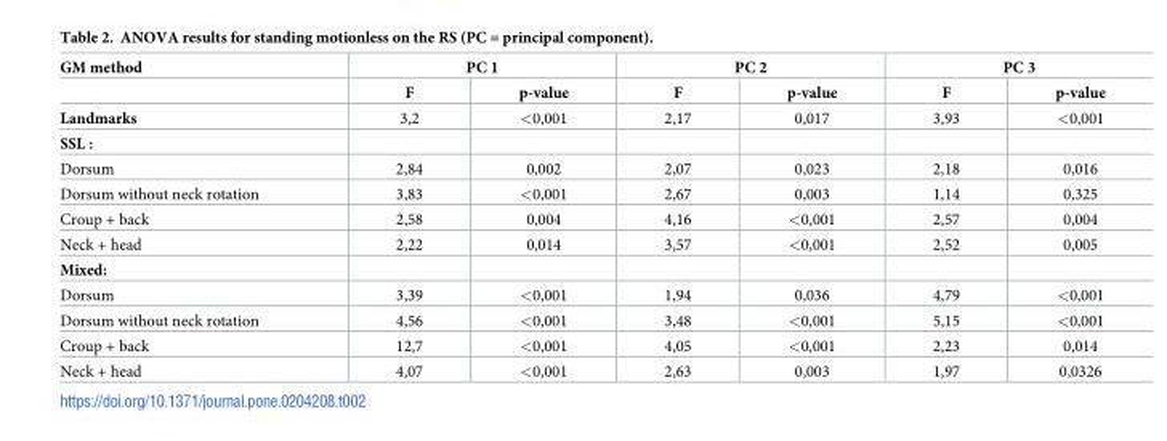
<table><thead><tr><td rowspan="2">GM method</td><td colspan="2">PC 1</td><td colspan="2">PC 2</td><td colspan="2">PC 3</td></tr><tr><td>F</td><td>p-value</td><td>F</td><td>p-value</td><td>F</td><td>p-value</td></tr></thead><tbody><tr><td>Landmarks</td><td>3,2</td><td>&lt;0,001</td><td>2,17</td><td>0,017</td><td>3,93</td><td>&lt;0,001</td></tr><tr><td colspan="7">SSL :</td></tr><tr><td>Dorsum</td><td>2,84</td><td>0,002</td><td>2,07</td><td>0,023</td><td>2,18</td><td>0,016</td></tr><tr><td>Dorsum without neck rotation</td><td>3,83</td><td>&lt;0,001</td><td>2,67</td><td>0,003</td><td>1,14</td><td>0,325</td></tr><tr><td>Croup + back</td><td>2,58</td><td>0,004</td><td>4,16</td><td>&lt;0,001</td><td>2,57</td><td>0,004</td></tr><tr><td>Neck + head</td><td>2,22</td><td>0,014</td><td>3,57</td><td>&lt;0,001</td><td>2,52</td><td>0,005</td></tr><tr><td colspan="7">Mixed:</td></tr><tr><td>Dorsum</td><td>3,39</td><td>&lt;0,001</td><td>1,94</td><td>0,036</td><td>4,79</td><td>&lt;0,001</td></tr><tr><td>Dorsum without neck rotation</td><td>4,56</td><td>&lt;0,001</td><td>3,48</td><td>&lt;0,001</td><td>5,15</td><td>&lt;0,001</td></tr><tr><td>Croup + back</td><td>12,7</td><td>&lt;0,001</td><td>4,05</td><td>&lt;0,001</td><td>2,23</td><td>0,014</td></tr><tr><td>Neck + head</td><td>4,07</td><td>&lt;0,001</td><td>2,63</td><td>0,003</td><td>1,97</td><td>0,0326</td></tr></tbody></table>